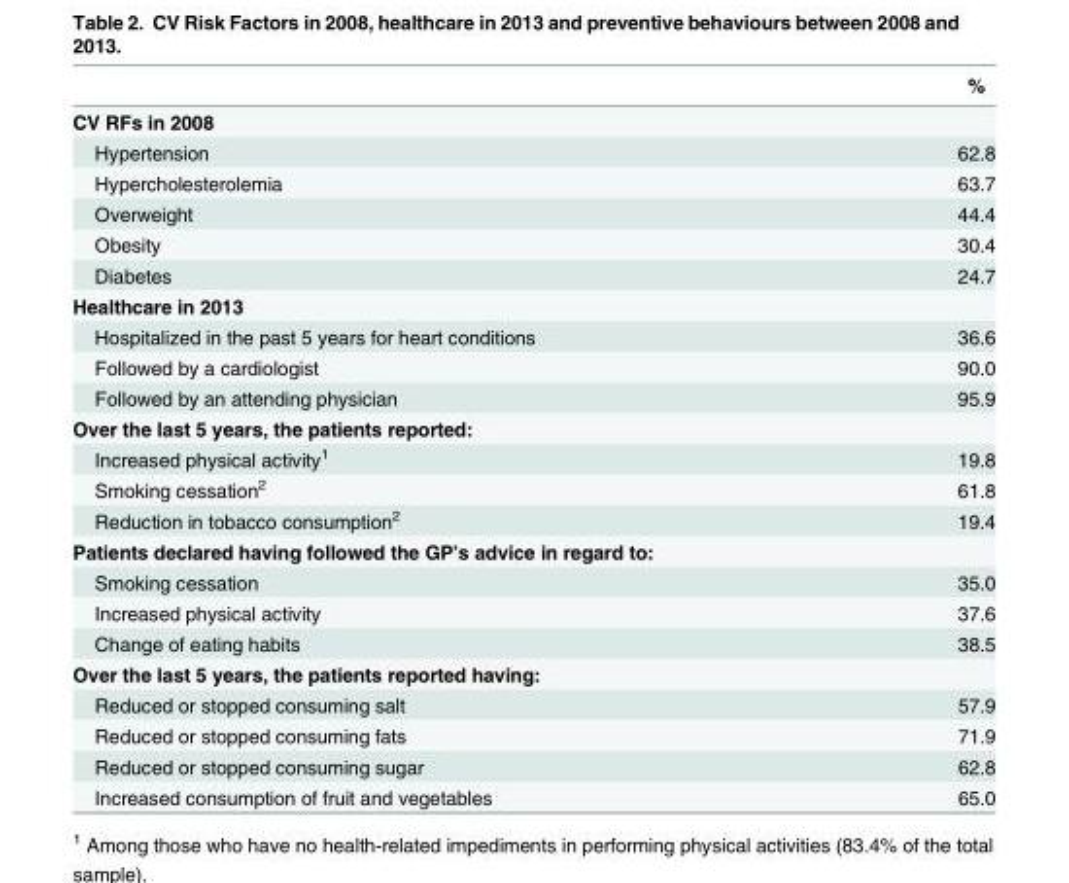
<table><thead><tr><td></td><td>%</td></tr></thead><tbody><tr><td colspan="2">CV RFs in 2008</td></tr><tr><td>Hypertension</td><td>62.8</td></tr><tr><td>Hypercholesterolemia</td><td>63.7</td></tr><tr><td>Overweight</td><td>44.4</td></tr><tr><td>Obesity</td><td>30.4</td></tr><tr><td>Diabetes</td><td>24.7</td></tr><tr><td colspan="2">Healthcare in 2013</td></tr><tr><td>Hospitalized in the past 5 years for heart conditions</td><td>36.6</td></tr><tr><td>Followed by a cardiologist</td><td>90.0</td></tr><tr><td>Followed by an attending physician</td><td>95.9</td></tr><tr><td colspan="2">Over the last 5 years, the patients reported:</td></tr><tr><td>Increased physical activity<sup>1</sup></td><td>19.8</td></tr><tr><td>Smoking cessation<sup>2</sup></td><td>61.8</td></tr><tr><td>Reduction in tobacco consumption<sup>2</sup></td><td>19.4</td></tr><tr><td colspan="2">Patients declared having followed the GP’s advice in regard to:</td></tr><tr><td>Smoking cessation</td><td>35.0</td></tr><tr><td>Increased physical activity</td><td>37.6</td></tr><tr><td>Change of eating habits</td><td>38.5</td></tr><tr><td colspan="2">Over the last 5 years, the patients reported having:</td></tr><tr><td>Reduced or stopped consuming salt</td><td>57.9</td></tr><tr><td>Reduced or stopped consuming fats</td><td>71.9</td></tr><tr><td>Reduced or stopped consuming sugar</td><td>62.8</td></tr><tr><td>Increased consumption of fruit and vegetables</td><td>65.0</td></tr></tbody></table>